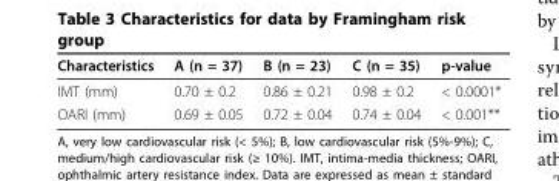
<table><thead><tr><td>Characteristics</td><td>A (n = 37)</td><td>B (n = 23)</td><td>C (n = 35)</td><td>p-value</td></tr></thead><tbody><tr><td>IMT (mm)</td><td>0.70 ± 0.2</td><td>0.86 ± 0.21</td><td>0.98 ± 0.2</td><td>&lt; 0.0001*</td></tr><tr><td>OARI (mm)</td><td>0.69 ± 0.05</td><td>0.72 ± 0.04</td><td>0.74 ± 0.04</td><td>&lt; 0.001**</td></tr></tbody></table>